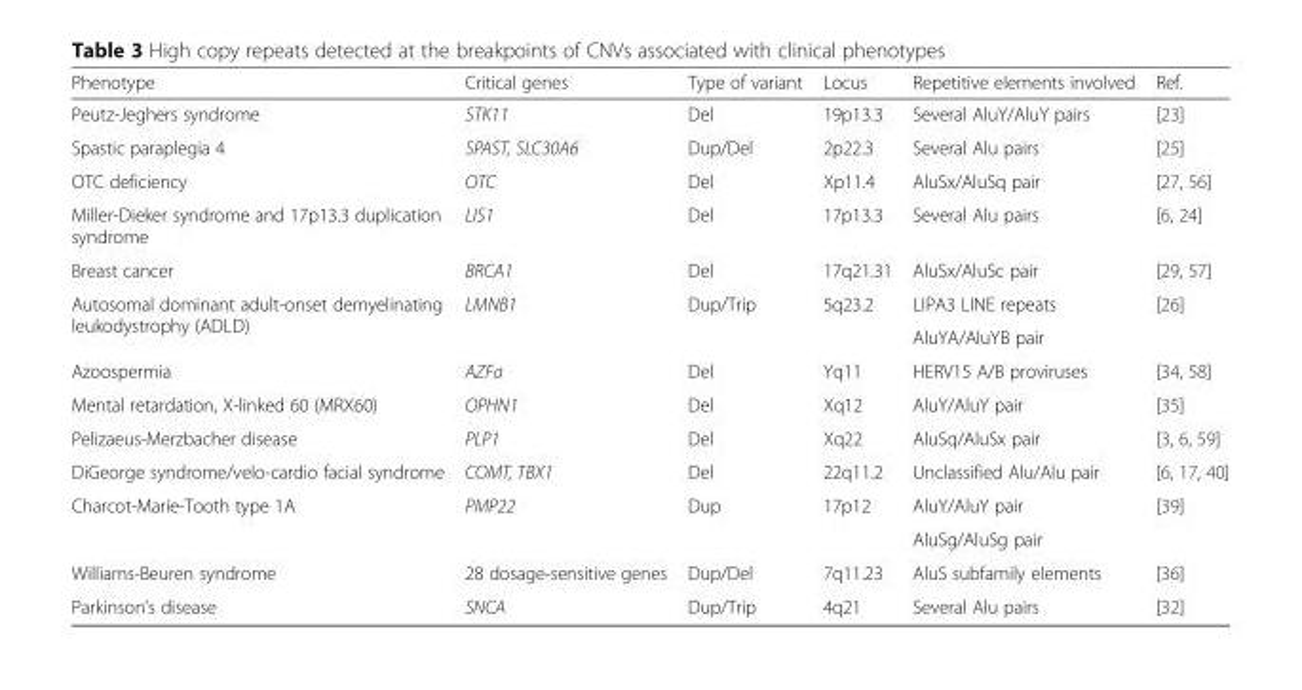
<table><thead><tr><td>Phenotype</td><td>Critical genes</td><td>Type of variant</td><td>Locus</td><td>Repetitive elements involved</td><td>Ref.</td></tr></thead><tbody><tr><td>Peutz-Jeghers syndrome</td><td>STK11</td><td>Del</td><td>19p13.3</td><td>Several AluY/AluY pairs</td><td>[23]</td></tr><tr><td>Spastic paraplegia 4</td><td>SPAST, SLC30A6</td><td>Dup/Del</td><td>2p22.3</td><td>Several Alu pairs</td><td>[25]</td></tr><tr><td>OTC deficiency</td><td>OTC</td><td>Del</td><td>Xp11.4</td><td>AluSx/AluSq pair</td><td>[27, 56]</td></tr><tr><td>Miller-Dieker syndrome and 17p13.3 duplication syndrome</td><td>LIS1</td><td>Del</td><td>17p13.3</td><td>Several Alu pairs</td><td>[6, 24]</td></tr><tr><td>Breast cancer</td><td>BRCA1</td><td>Del</td><td>17q21.31</td><td>AluSx/AluSc pair</td><td>[29, 57]</td></tr><tr><td rowspan="2">Autosomal dominant adult-onset demyelinating leukodystrophy (ADLD)</td><td rowspan="2">LMNB1</td><td rowspan="2">Dup/Trip</td><td rowspan="2">5q23.2</td><td>LIPA3 LINE repeats</td><td rowspan="2">[26]</td></tr><tr><td>AluYA/AluYB pair</td></tr><tr><td>Azoospermia</td><td>AZFa</td><td>Del</td><td>Yq11</td><td>HERV15 A/B proviruses</td><td>[34, 58]</td></tr><tr><td>Mental retardation, X-linked 60 (MRX60)</td><td>OPHN1</td><td>Del</td><td>Xq12</td><td>AluY/AluY pair</td><td>[35]</td></tr><tr><td>Pelizaeus-Merzbacher disease</td><td>PLP1</td><td>Del</td><td>Xq22</td><td>AluSq/AluSx pair</td><td>[3, 6, 59]</td></tr><tr><td>DiGeorge syndrome/velo-cardio facial syndrome</td><td>COMT, TBX1</td><td>Del</td><td>22q11.2</td><td>Unclassified Alu/Alu pair</td><td>[6, 17, 40]</td></tr><tr><td rowspan="2">Charcot-Marie-Tooth type 1A</td><td rowspan="2">PMP22</td><td rowspan="2">Dup</td><td rowspan="2">17p12</td><td>AluY/AluY pair</td><td rowspan="2">[39]</td></tr><tr><td>AluSg/AluSg pair</td></tr><tr><td>Williams-Beuren syndrome</td><td>28 dosage-sensitive genes</td><td>Dup/Del</td><td>7q11.23</td><td>AluS subfamily elements</td><td>[36]</td></tr><tr><td>Parkinson’s disease</td><td>SNCA</td><td>Dup/Trip</td><td>4q21</td><td>Several Alu pairs</td><td>[32]</td></tr></tbody></table>